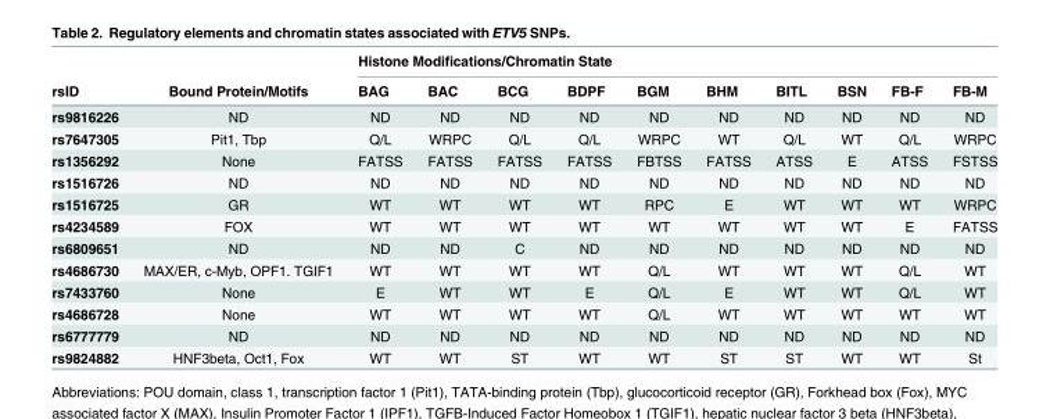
<table><thead><tr><td rowspan="2">rsID</td><td rowspan="2">Bound Protein/Motifs</td><td colspan="10">Histone Modifications/Chromatin State</td></tr><tr><td>BAG</td><td>BAC</td><td>BCG</td><td>BDPF</td><td>BGM</td><td>BHM</td><td>BITL</td><td>BSN</td><td>FB-F</td><td>FB-M</td></tr></thead><tbody><tr><td>rs9816226</td><td>ND</td><td>ND</td><td>ND</td><td>ND</td><td>ND</td><td>ND</td><td>ND</td><td>ND</td><td>ND</td><td>ND</td><td>ND</td></tr><tr><td>rs7647305</td><td>Pit1, Tbp</td><td>Q/L</td><td>WRPC</td><td>Q/L</td><td>Q/L</td><td>WRPC</td><td>WT</td><td>Q/L</td><td>WT</td><td>Q/L</td><td>WRPC</td></tr><tr><td>rs1356292</td><td>None</td><td>FATSS</td><td>FATSS</td><td>FATSS</td><td>FATSS</td><td>FBTSS</td><td>FATSS</td><td>ATSS</td><td>E</td><td>ATSS</td><td>FSTSS</td></tr><tr><td>rs1516726</td><td>ND</td><td>ND</td><td>ND</td><td>ND</td><td>ND</td><td>ND</td><td>ND</td><td>ND</td><td>ND</td><td>ND</td><td>ND</td></tr><tr><td>rs1516725</td><td>GR</td><td>WT</td><td>WT</td><td>WT</td><td>WT</td><td>RPC</td><td>E</td><td>WT</td><td>WT</td><td>WT</td><td>WRPC</td></tr><tr><td>rs4234589</td><td>FOX</td><td>WT</td><td>WT</td><td>WT</td><td>WT</td><td>WT</td><td>WT</td><td>WT</td><td>WT</td><td>E</td><td>FATSS</td></tr><tr><td>rs6809651</td><td>ND</td><td>ND</td><td>ND</td><td>C</td><td>ND</td><td>ND</td><td>ND</td><td>ND</td><td>ND</td><td>ND</td><td>ND</td></tr><tr><td>rs4686730</td><td>MAX/ER, c-Myb, OPF1. TGIF1</td><td>WT</td><td>WT</td><td>WT</td><td>WT</td><td>Q/L</td><td>WT</td><td>WT</td><td>WT</td><td>Q/L</td><td>WT</td></tr><tr><td>rs7433760</td><td>None</td><td>E</td><td>WT</td><td>WT</td><td>E</td><td>Q/L</td><td>E</td><td>WT</td><td>WT</td><td>Q/L</td><td>WT</td></tr><tr><td>rs4686728</td><td>None</td><td>WT</td><td>WT</td><td>WT</td><td>WT</td><td>Q/L</td><td>WT</td><td>WT</td><td>WT</td><td>WT</td><td>WT</td></tr><tr><td>rs6777779</td><td>ND</td><td>ND</td><td>ND</td><td>ND</td><td>ND</td><td>ND</td><td>ND</td><td>ND</td><td>ND</td><td>ND</td><td>ND</td></tr><tr><td>rs9824882</td><td>HNF3beta, Oct1, Fox</td><td>WT</td><td>WT</td><td>ST</td><td>WT</td><td>WT</td><td>ST</td><td>ST</td><td>WT</td><td>WT</td><td>St</td></tr></tbody></table>